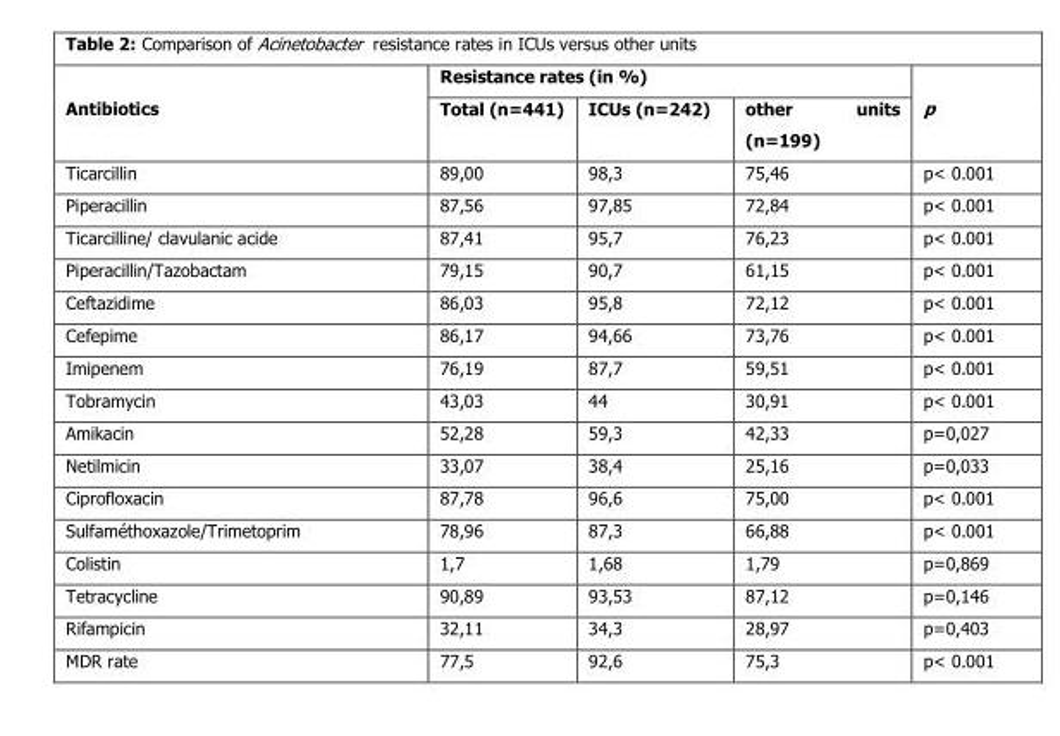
<table><thead><tr><td rowspan="2">Antibiotics</td><td colspan="3">Resistance rates (in %)</td><td rowspan="2">p</td></tr><tr><td>Total (n=441)</td><td>ICUs (n=242)</td><td>other units (n=199)</td></tr></thead><tbody><tr><td>Ticarcillin</td><td>89,00</td><td>98,3</td><td>75,46</td><td>p&lt; 0.001</td></tr><tr><td>Piperacillin</td><td>87,56</td><td>97,85</td><td>72,84</td><td>p&lt; 0.001</td></tr><tr><td>Ticarcilline/ clavulanic acide</td><td>87,41</td><td>95,7</td><td>76,23</td><td>p&lt; 0.001</td></tr><tr><td>Piperacillin/Tazobactam</td><td>79,15</td><td>90,7</td><td>61,15</td><td>p&lt; 0.001</td></tr><tr><td>Ceftazidime</td><td>86,03</td><td>95,8</td><td>72,12</td><td>p&lt; 0.001</td></tr><tr><td>Cefepime</td><td>86,17</td><td>94,66</td><td>73,76</td><td>p&lt; 0.001</td></tr><tr><td>Imipenem</td><td>76,19</td><td>87,7</td><td>59,51</td><td>p&lt; 0.001</td></tr><tr><td>Tobramycin</td><td>43,03</td><td>44</td><td>30,91</td><td>p&lt; 0.001</td></tr><tr><td>Amikacin</td><td>52,28</td><td>59,3</td><td>42,33</td><td>p=0,027</td></tr><tr><td>Netilmicin</td><td>33,07</td><td>38,4</td><td>25,16</td><td>p=0,033</td></tr><tr><td>Ciprofloxacin</td><td>87,78</td><td>96,6</td><td>75,00</td><td>p&lt; 0.001</td></tr><tr><td>Sulfaméthoxazole/Trimetoprim</td><td>78,96</td><td>87,3</td><td>66,88</td><td>p&lt; 0.001</td></tr><tr><td>Colistin</td><td>1,7</td><td>1,68</td><td>1,79</td><td>p=0,869</td></tr><tr><td>Tetracycline</td><td>90,89</td><td>93,53</td><td>87,12</td><td>p=0,146</td></tr><tr><td>Rifampicin</td><td>32,11</td><td>34,3</td><td>28,97</td><td>p=0,403</td></tr><tr><td>MDR rate</td><td>77,5</td><td>92,6</td><td>75,3</td><td>p&lt; 0.001</td></tr></tbody></table>